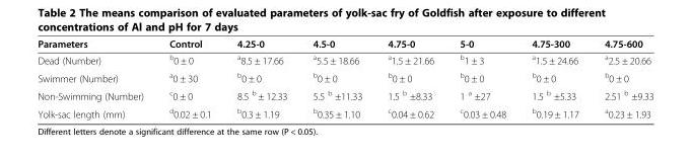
<table><thead><tr><td>Parameters</td><td>Control</td><td>4.25-0</td><td>4.5-0</td><td>4.75-0</td><td>5-0</td><td>4.75-300</td><td>4.75-600</td></tr></thead><tbody><tr><td>Dead (Number)</td><td><sup>b</sup>0 ± 0</td><td><sup>a</sup>8.5 ± 17.66</td><td><sup>a</sup>5.5 ± 18.66</td><td><sup>a</sup>1.5 ± 21.66</td><td><sup>b</sup>1 ± 3</td><td><sup>a</sup>1.5 ± 24.66</td><td><sup>a</sup>2.5 ± 20.66</td></tr><tr><td>Swimmer (Number)</td><td><sup>a</sup>0 ± 30</td><td><sup>b</sup>0 ± 0</td><td><sup>b</sup>0 ± 0</td><td><sup>b</sup>0 ± 0</td><td><sup>b</sup>0 ± 0</td><td><sup>b</sup>0 ± 0</td><td><sup>b</sup>0 ± 0</td></tr><tr><td>Non-Swimming (Number)</td><td><sup>c</sup>0 ± 0</td><td>8.5 <sup>b</sup> ± 12.33</td><td>5.5 <sup>b</sup> ±11.33</td><td>1.5 <sup>b</sup> ±8.33</td><td>1 <sup>a</sup> ±27</td><td>1.5 <sup>b</sup> ±5.33</td><td>2.51 <sup>b</sup> ±9.33</td></tr><tr><td>Yolk-sac length (mm)</td><td><sup>d</sup>0.02 ± 0.1</td><td><sup>b</sup>0.3 ± 1.19</td><td><sup>b</sup>0.35 ± 1.10</td><td><sup>c</sup>0.04 ± 0.62</td><td><sup>c</sup>0.03 ± 0.48</td><td><sup>b</sup>0.19 ± 1.17</td><td><sup>a</sup>0.23 ± 1.93</td></tr></tbody></table>